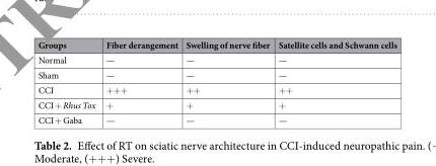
<table><thead><tr><td>Groups</td><td>Fiber derangement</td><td>Swelling of nerve fiber</td><td>Satellite cells and Schwann cells</td></tr></thead><tbody><tr><td>Normal</td><td>—</td><td>—</td><td>—</td></tr><tr><td>Sham</td><td>—</td><td>—</td><td>—</td></tr><tr><td>CCI</td><td>+++</td><td>++</td><td>++</td></tr><tr><td>CCI + Rhus Tox</td><td>+</td><td>+</td><td>+</td></tr><tr><td>CCI + Gaba</td><td>—</td><td>—</td><td>—</td></tr></tbody></table>